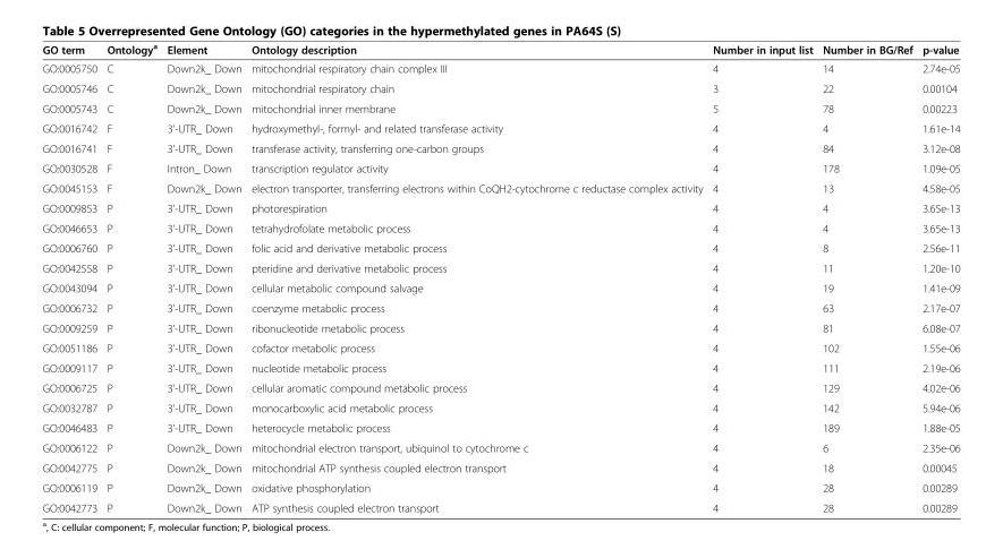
<table><thead><tr><td>GO term</td><td>Ontology<sup>a</sup></td><td>Element</td><td>Ontology description</td><td>Number in input list</td><td>Number in BG/Ref</td><td>p-value</td></tr></thead><tbody><tr><td>GO:0005750</td><td>C</td><td>Down2k_ Down</td><td>mitochondrial respiratory chain complex III</td><td>4</td><td>14</td><td>2.74e-05</td></tr><tr><td>GO:0005746</td><td>C</td><td>Down2k_ Down</td><td>mitochondrial respiratory chain</td><td>3</td><td>22</td><td>0.00104</td></tr><tr><td>GO:0005743</td><td>C</td><td>Down2k_ Down</td><td>mitochondrial inner membrane</td><td>5</td><td>78</td><td>0.00223</td></tr><tr><td>GO:0016742</td><td>F</td><td>3’-UTR_ Down</td><td>hydroxymethyl-, formyl- and related transferase activity</td><td>4</td><td>4</td><td>1.61e-14</td></tr><tr><td>GO:0016741</td><td>F</td><td>3’-UTR_ Down</td><td>transferase activity, transferring one-carbon groups</td><td>4</td><td>84</td><td>3.12e-08</td></tr><tr><td>GO:0030528</td><td>F</td><td>Intron_ Down</td><td>transcription regulator activity</td><td>4</td><td>178</td><td>1.09e-05</td></tr><tr><td>GO:0045153</td><td>F</td><td>Down2k_ Down</td><td>electron transporter, transferring electrons within CoQH2-cytochrome c reductase complex activity</td><td>4</td><td>13</td><td>4.58e-05</td></tr><tr><td>GO:0009853</td><td>P</td><td>3’-UTR_ Down</td><td>photorespiration</td><td>4</td><td>4</td><td>3.65e-13</td></tr><tr><td>GO:0046653</td><td>P</td><td>3’-UTR_ Down</td><td>tetrahydrofolate metabolic process</td><td>4</td><td>4</td><td>3.65e-13</td></tr><tr><td>GO:0006760</td><td>P</td><td>3’-UTR_ Down</td><td>folic acid and derivative metabolic process</td><td>4</td><td>8</td><td>2.56e-11</td></tr><tr><td>GO:0042558</td><td>P</td><td>3’-UTR_ Down</td><td>pteridine and derivative metabolic process</td><td>4</td><td>11</td><td>1.20e-10</td></tr><tr><td>GO:0043094</td><td>P</td><td>3’-UTR_ Down</td><td>cellular metabolic compound salvage</td><td>4</td><td>19</td><td>1.41e-09</td></tr><tr><td>GO:0006732</td><td>P</td><td>3’-UTR_ Down</td><td>coenzyme metabolic process</td><td>4</td><td>63</td><td>2.17e-07</td></tr><tr><td>GO:0009259</td><td>P</td><td>3’-UTR_ Down</td><td>ribonucleotide metabolic process</td><td>4</td><td>81</td><td>6.08e-07</td></tr><tr><td>GO:0051186</td><td>P</td><td>3’-UTR_ Down</td><td>cofactor metabolic process</td><td>4</td><td>102</td><td>1.55e-06</td></tr><tr><td>GO:0009117</td><td>P</td><td>3’-UTR_ Down</td><td>nucleotide metabolic process</td><td>4</td><td>111</td><td>2.19e-06</td></tr><tr><td>GO:0006725</td><td>P</td><td>3’-UTR_ Down</td><td>cellular aromatic compound metabolic process</td><td>4</td><td>129</td><td>4.02e-06</td></tr><tr><td>GO:0032787</td><td>P</td><td>3’-UTR_ Down</td><td>monocarboxylic acid metabolic process</td><td>4</td><td>142</td><td>5.94e-06</td></tr><tr><td>GO:0046483</td><td>P</td><td>3’-UTR_ Down</td><td>heterocycle metabolic process</td><td>4</td><td>189</td><td>1.88e-05</td></tr><tr><td>GO:0006122</td><td>P</td><td>Down2k_ Down</td><td>mitochondrial electron transport, ubiquinol to cytochrome c</td><td>4</td><td>6</td><td>2.35e-06</td></tr><tr><td>GO:0042775</td><td>P</td><td>Down2k_ Down</td><td>mitochondrial ATP synthesis coupled electron transport</td><td>4</td><td>18</td><td>0.00045</td></tr><tr><td>GO:0006119</td><td>P</td><td>Down2k_ Down</td><td>oxidative phosphorylation</td><td>4</td><td>28</td><td>0.00289</td></tr><tr><td>GO:0042773</td><td>P</td><td>Down2k_ Down</td><td>ATP synthesis coupled electron transport</td><td>4</td><td>28</td><td>0.00289</td></tr></tbody></table>